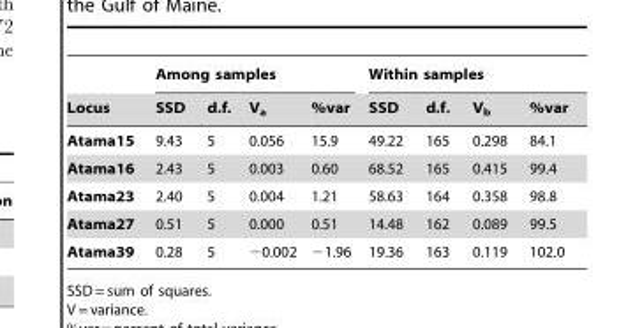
<table><thead><tr><td rowspan="2">Locus</td><td colspan="4">Among samples</td><td colspan="4">Within samples</td></tr><tr><td>SSD</td><td>d.f.</td><td>V<sub>a</sub></td><td>%var</td><td>SSD</td><td>d.f.</td><td>V<sub>b</sub></td><td>%var</td></tr></thead><tbody><tr><td>Atama15</td><td>9.43</td><td>5</td><td>0.056</td><td>15.9</td><td>49.22</td><td>165</td><td>0.298</td><td>84.1</td></tr><tr><td>Atama16</td><td>2.43</td><td>5</td><td>0.003</td><td>0.60</td><td>68.52</td><td>165</td><td>0.415</td><td>99.4</td></tr><tr><td>Atama23</td><td>2.40</td><td>5</td><td>0.004</td><td>1.21</td><td>58.63</td><td>164</td><td>0.358</td><td>98.8</td></tr><tr><td>Atama27</td><td>0.51</td><td>5</td><td>0.000</td><td>0.51</td><td>14.48</td><td>162</td><td>0.089</td><td>99.5</td></tr><tr><td>Atama39</td><td>0.28</td><td>5</td><td>−0.002</td><td>−1.96</td><td>19.36</td><td>163</td><td>0.119</td><td>102.0</td></tr></tbody></table>